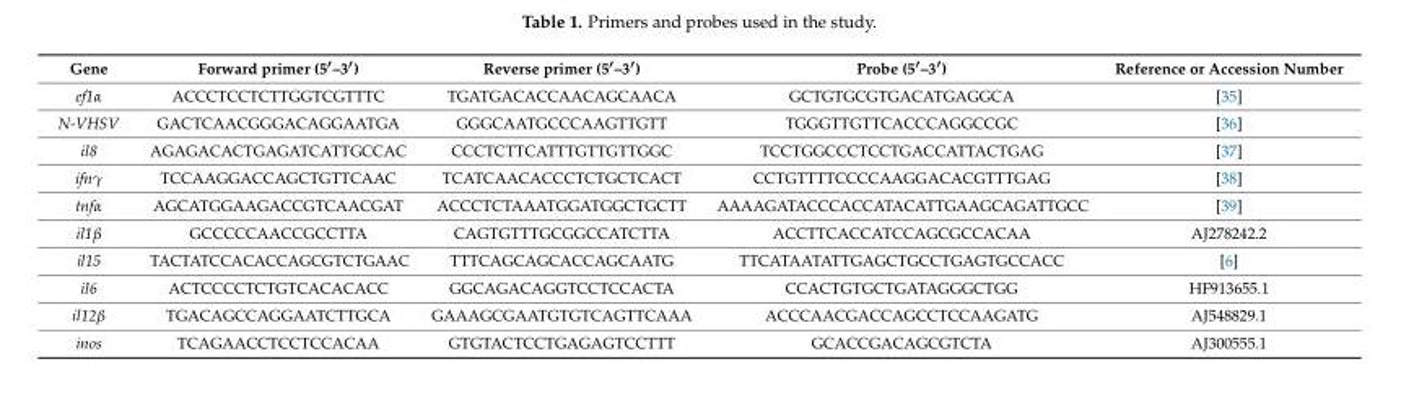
<table><thead><tr><td>Gene</td><td>Forward primer (5′–3′)</td><td>Reverse primer (5′–3′)</td><td>Probe (5′–3′)</td><td>Reference or Accession Number</td></tr></thead><tbody><tr><td>ef1α</td><td>ACCCTCCTCTTGGTCGTTTC</td><td>TGATGACACCAACAGCAACA</td><td>GCTGTGCGTGACATGAGGCA</td><td>[35]</td></tr><tr><td>N-VHSV</td><td>GACTCAACGGGACAGGAATGA</td><td>GGGCAATGCCCAAGTTGTT</td><td>TGGGTTGTTCACCCAGGCCGC</td><td>[36]</td></tr><tr><td>il8</td><td>AGAGACACTGAGATCATTGCCAC</td><td>CCCTCTTCATTTGTTGTTGGC</td><td>TCCTGGCCCTCCTGACCATTACTGAG</td><td>[37]</td></tr><tr><td>ifnγ</td><td>TCCAAGGACCAGCTGTTCAAC</td><td>TCATCAACACCCTCTGCTCACT</td><td>CCTGTTTTCCCCAAGGACACGTTTGAG</td><td>[38]</td></tr><tr><td>tnfα</td><td>AGCATGGAAGACCGTCAACGAT</td><td>ACCCTCTAAATGGATGGCTGCTT</td><td>AAAAGATACCCACCATACATTGAAGCAGATTGCC</td><td>[39]</td></tr><tr><td>il1β</td><td>GCCCCCAACCGCCTTA</td><td>CAGTGTTTGCGGCCATCTTA</td><td>ACCTTCACCATCCAGCGCCACAA</td><td>AJ278242.2</td></tr><tr><td>il15</td><td>TACTATCCACACCAGCGTCTGAAC</td><td>TTTCAGCAGCACCAGCAATG</td><td>TTCATAATATTGAGCTGCCTGAGTGCCACC</td><td>[6]</td></tr><tr><td>il6</td><td>ACTCCCCTCTGTCACACACC</td><td>GGCAGACAGGTCCTCCACTA</td><td>CCACTGTGCTGATAGGGCTGG</td><td>HF913655.1</td></tr><tr><td>il12β</td><td>TGACAGCCAGGAATCTTGCA</td><td>GAAAGCGAATGTGTCAGTTCAAA</td><td>ACCCAACGACCAGCCTCCAAGATG</td><td>AJ548829.1</td></tr><tr><td>inos</td><td>TCAGAACCTCCTCCACAA</td><td>GTGTACTCCTGAGAGTCCTTT</td><td>GCACCGACAGCGTCTA</td><td>AJ300555.1</td></tr></tbody></table>